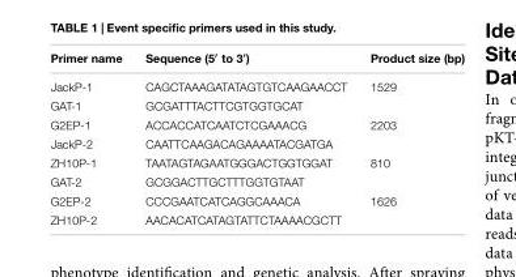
<table><thead><tr><td>Primer name</td><td>Sequence (5′ to 3′)</td><td>Product size (bp)</td></tr></thead><tbody><tr><td>JackP-1</td><td>CAGCTAAAGATATAGTGTCAAGAACCT</td><td>1529</td></tr><tr><td>GAT-1</td><td>GCGATTTACTTCGTGGTGCAT</td><td></td></tr><tr><td>G2EP-1</td><td>ACCACCATCAATCTCGAAACG</td><td>2203</td></tr><tr><td>JackP-2</td><td>CAATTCAAGACAGAAAATACGATGA</td><td></td></tr><tr><td>ZH10P-1</td><td>TAATAGTAGAATGGGACTGGTGGAT</td><td>810</td></tr><tr><td>GAT-2</td><td>GCGGACTTGCTTTGGTGTAAT</td><td></td></tr><tr><td>G2EP-2</td><td>CCCGAATCATCAGGCAAACA</td><td>1626</td></tr><tr><td>ZH10P-2</td><td>AACACATCATAGTATTCTAAAACGCTT</td><td></td></tr></tbody></table>